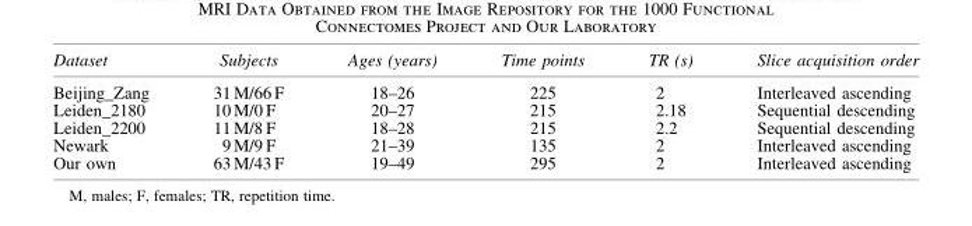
<table><thead><tr><td>Dataset</td><td>Subjects</td><td>Ages (years)</td><td>Time points</td><td>TR (s)</td><td>Slice acquisition order</td></tr></thead><tbody><tr><td>Beijing_Zang</td><td>31 M/66 F</td><td>18–26</td><td>225</td><td>2</td><td>Interleaved ascending</td></tr><tr><td>Leiden_2180</td><td>10 M/0 F</td><td>20–27</td><td>215</td><td>2.18</td><td>Sequential descending</td></tr><tr><td>Leiden_2200</td><td>11 M/8 F</td><td>18–28</td><td>215</td><td>2.2</td><td>Sequential descending</td></tr><tr><td>Newark</td><td>9 M/9 F</td><td>21–39</td><td>135</td><td>2</td><td>Interleaved ascending</td></tr><tr><td>Our own</td><td>63 M/43 F</td><td>19–49</td><td>295</td><td>2</td><td>Interleaved ascending</td></tr></tbody></table>